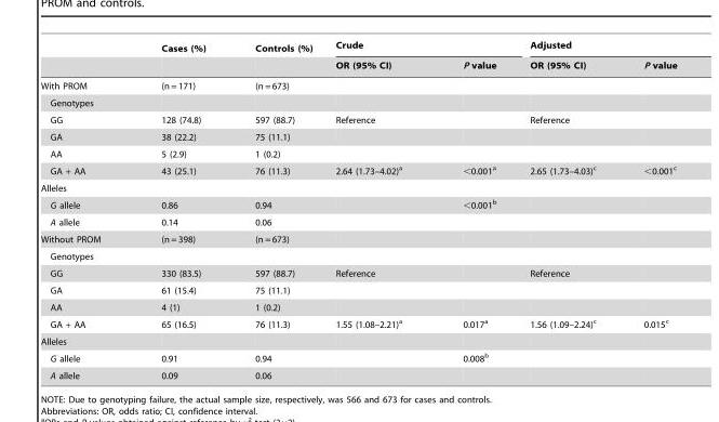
<table><thead><tr><td rowspan="2"></td><td rowspan="2">Cases (%)</td><td rowspan="2">Controls (%)</td><td colspan="2">Crude</td><td colspan="2">Adjusted</td></tr><tr><td>OR (95% CI)</td><td>P value</td><td>OR (95% CI)</td><td>P value</td></tr></thead><tbody><tr><td>With PROM</td><td>(n = 171)</td><td>(n = 673)</td><td></td><td></td><td></td><td></td></tr><tr><td colspan="7">Genotypes</td></tr><tr><td>GG</td><td>128 (74.8)</td><td>597 (88.7)</td><td>Reference</td><td></td><td>Reference</td><td></td></tr><tr><td>GA</td><td>38 (22.2)</td><td>75 (11.1)</td><td></td><td></td><td></td><td></td></tr><tr><td>AA</td><td>5 (2.9)</td><td>1 (0.2)</td><td></td><td></td><td></td><td></td></tr><tr><td>GA + AA</td><td>43 (25.1)</td><td>76 (11.3)</td><td>2.64 (1.73–4.02)<sup>a</sup></td><td>&lt;0.001<sup>a</sup></td><td>2.65 (1.73–4.03)<sup>c</sup></td><td>&lt;0.001<sup>c</sup></td></tr><tr><td colspan="7">Alleles</td></tr><tr><td>G allele</td><td>0.86</td><td>0.94</td><td></td><td>&lt;0.001<sup>b</sup></td><td></td><td></td></tr><tr><td>A allele</td><td>0.14</td><td>0.06</td><td></td><td></td><td></td><td></td></tr><tr><td>Without PROM</td><td>(n = 398)</td><td>(n = 673)</td><td></td><td></td><td></td><td></td></tr><tr><td colspan="7">Genotypes</td></tr><tr><td>GG</td><td>330 (83.5)</td><td>597 (88.7)</td><td>Reference</td><td></td><td>Reference</td><td></td></tr><tr><td>GA</td><td>61 (15.4)</td><td>75 (11.1)</td><td></td><td></td><td></td><td></td></tr><tr><td>AA</td><td>4 (1)</td><td>1 (0.2)</td><td></td><td></td><td></td><td></td></tr><tr><td>GA + AA</td><td>65 (16.5)</td><td>76 (11.3)</td><td>1.55 (1.08–2.21)<sup>a</sup></td><td>0.017<sup>a</sup></td><td>1.56 (1.09–2.24)<sup>c</sup></td><td>0.015<sup>c</sup></td></tr><tr><td colspan="7">Alleles</td></tr><tr><td>G allele</td><td>0.91</td><td>0.94</td><td></td><td>0.008<sup>b</sup></td><td></td><td></td></tr><tr><td>A allele</td><td>0.09</td><td>0.06</td><td></td><td></td><td></td><td></td></tr></tbody></table>